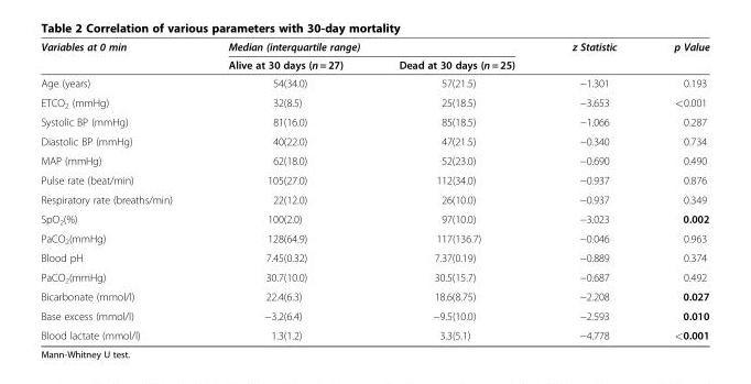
<table><thead><tr><td rowspan="2">Variables at 0 min</td><td colspan="2">Median (interquartile range)</td><td rowspan="2">z Statistic</td><td rowspan="2">p Value</td></tr><tr><td>Alive at 30 days (n = 27)</td><td>Dead at 30 days (n = 25)</td></tr></thead><tbody><tr><td>Age (years)</td><td>54(34.0)</td><td>57(21.5)</td><td>−1.301</td><td>0.193</td></tr><tr><td>ETCO<sub>2</sub> (mmHg)</td><td>32(8.5)</td><td>25(18.5)</td><td>−3.653</td><td>&lt;0.001</td></tr><tr><td>Systolic BP (mmHg)</td><td>81(16.0)</td><td>85(18.5)</td><td>−1.066</td><td>0.287</td></tr><tr><td>Diastolic BP (mmHg)</td><td>40(22.0)</td><td>47(21.5)</td><td>−0.340</td><td>0.734</td></tr><tr><td>MAP (mmHg)</td><td>62(18.0)</td><td>52(23.0)</td><td>−0.690</td><td>0.490</td></tr><tr><td>Pulse rate (beat/min)</td><td>105(27.0)</td><td>112(34.0)</td><td>−0.937</td><td>0.876</td></tr><tr><td>Respiratory rate (breaths/min)</td><td>22(12.0)</td><td>26(10.0)</td><td>−0.937</td><td>0.349</td></tr><tr><td>SpO<sub>2</sub>(%)</td><td>100(2.0)</td><td>97(10.0)</td><td>−3.023</td><td>0.002</td></tr><tr><td>PaCO<sub>2</sub>(mmHg)</td><td>128(64.9)</td><td>117(136.7)</td><td>−0.046</td><td>0.963</td></tr><tr><td>Blood pH</td><td>7.45(0.32)</td><td>7.37(0.19)</td><td>−0.889</td><td>0.374</td></tr><tr><td>PaCO<sub>2</sub>(mmHg)</td><td>30.7(10.0)</td><td>30.5(15.7)</td><td>−0.687</td><td>0.492</td></tr><tr><td>Bicarbonate (mmol/l)</td><td>22.4(6.3)</td><td>18.6(8.75)</td><td>−2.208</td><td>0.027</td></tr><tr><td>Base excess (mmol/l)</td><td>−3.2(6.4)</td><td>−9.5(10.0)</td><td>−2.593</td><td>0.010</td></tr><tr><td>Blood lactate (mmol/l)</td><td>1.3(1.2)</td><td>3.3(5.1)</td><td>−4.778</td><td>&lt;0.001</td></tr></tbody></table>